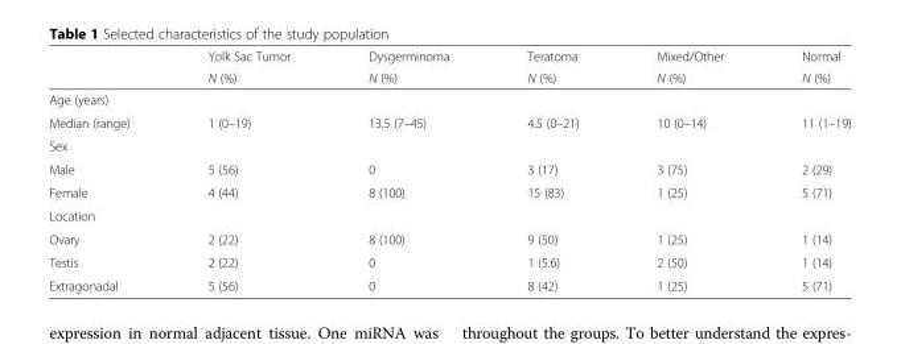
<table><thead><tr><td rowspan="2"></td><td rowspan="2">Yolk Sac Tumor N (%)</td><td rowspan="2">Dysgerminoma N (%)</td><td rowspan="2">Teratoma N (%)</td><td rowspan="2">Mixed/Other N (%)</td><td rowspan="2">Normal N (%)</td></tr><tr></tr></thead><tbody><tr><td colspan="6">Age (years)</td></tr><tr><td>Median (range)</td><td>1 (0–19)</td><td>13.5 (7–45)</td><td>4.5 (0–21)</td><td>10 (0–14)</td><td>11 (1–19)</td></tr><tr><td colspan="6">Sex</td></tr><tr><td>Male</td><td>5 (56)</td><td>0</td><td>3 (17)</td><td>3 (75)</td><td>2 (29)</td></tr><tr><td>Female</td><td>4 (44)</td><td>8 (100)</td><td>15 (83)</td><td>1 (25)</td><td>5 (71)</td></tr><tr><td colspan="6">Location</td></tr><tr><td>Ovary</td><td>2 (22)</td><td>8 (100)</td><td>9 (50)</td><td>1 (25)</td><td>1 (14)</td></tr><tr><td>Testis</td><td>2 (22)</td><td>0</td><td>1 (5.6)</td><td>2 (50)</td><td>1 (14)</td></tr><tr><td>Extragonadal</td><td>5 (56)</td><td>0</td><td>8 (42)</td><td>1 (25)</td><td>5 (71)</td></tr></tbody></table>